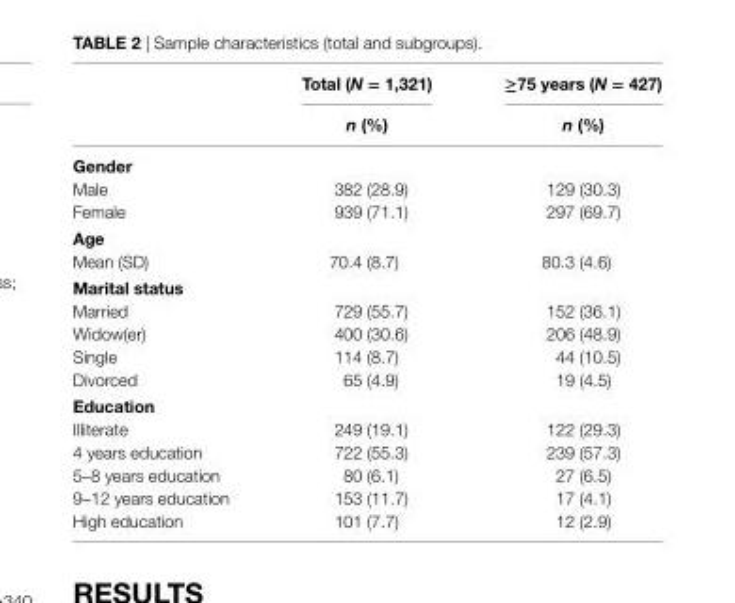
<table><thead><tr><td rowspan="2"></td><td rowspan="2">Total (N = 1,321) n (%)</td><td rowspan="2">≥75 years (N = 427) n (%)</td></tr><tr></tr></thead><tbody><tr><td colspan="3">gender</td></tr><tr><td>Male</td><td>382 (28.9)</td><td>129 (30.3)</td></tr><tr><td>Female</td><td>939 (71.1)</td><td>297 (69.7)</td></tr><tr><td colspan="3">age</td></tr><tr><td>Mean (SD)</td><td>70.4 (8.7)</td><td>80.3 (4.6)</td></tr><tr><td colspan="3">Marital status</td></tr><tr><td>Married</td><td>729 (55.7)</td><td>152 (36.1)</td></tr><tr><td>Widow(er)</td><td>400 (30.6)</td><td>206 (48.9)</td></tr><tr><td>Single</td><td>114 (8.7)</td><td>44 (10.5)</td></tr><tr><td>Divorced</td><td>65 (4.9)</td><td>19 (4.5)</td></tr><tr><td colspan="3">education</td></tr><tr><td>Illiterate</td><td>249 (19.1)</td><td>122 (29.3)</td></tr><tr><td>4 years education</td><td>722 (55.3)</td><td>239 (57.3)</td></tr><tr><td>5–8 years education</td><td>80 (6.1)</td><td>27 (6.5)</td></tr><tr><td>9–12 years education</td><td>153 (11.7)</td><td>17 (4.1)</td></tr><tr><td>High education</td><td>101 (7.7)</td><td>12 (2.9)</td></tr></tbody></table>